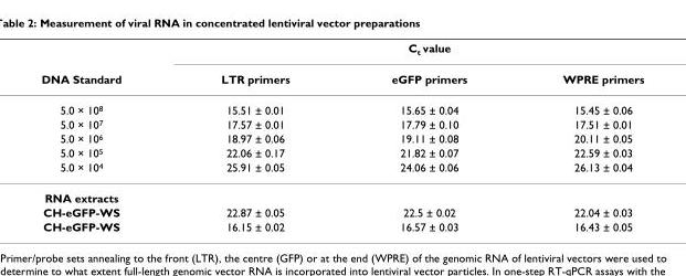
<table><thead><tr><td rowspan="2">DNA Standard</td><td colspan="3">Ct value</td></tr><tr><td>LTR primers</td><td>eGFP primers</td><td>WPRE primers</td></tr></thead><tbody><tr><td>5.0 × 108</td><td>15.51 ± 0.01</td><td>15.65 ± 0.04</td><td>15.45 ± 0.06</td></tr><tr><td>5.0 × 107</td><td>17.57 ± 0.01</td><td>17.79 ± 0.10</td><td>17.51 ± 0.01</td></tr><tr><td>5.0 × 106</td><td>18.97 ± 0.06</td><td>19.11 ± 0.08</td><td>20.11 ± 0.05</td></tr><tr><td>5.0 × 105</td><td>22.06 ± 0.17</td><td>21.82 ± 0.07</td><td>22.59 ± 0.03</td></tr><tr><td>5.0 × 104</td><td>25.91 ± 0.05</td><td>24.06 ± 0.06</td><td>26.13 ± 0.04</td></tr><tr><td colspan="4">RNA extracts</td></tr><tr><td>CH-eGFP-WS</td><td>22.87 ± 0.05</td><td>22.5 ± 0.02</td><td>22.04 ± 0.03</td></tr><tr><td>CH-eGFP-WS</td><td>16.15 ± 0.02</td><td>16.57 ± 0.03</td><td>16.43 ± 0.05</td></tr></tbody></table>